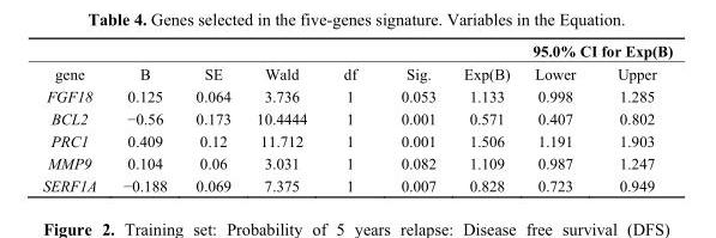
<table><thead><tr><td rowspan="2">gene</td><td rowspan="2">B</td><td rowspan="2">SE</td><td rowspan="2">Wald</td><td rowspan="2">df</td><td rowspan="2">Sig.</td><td rowspan="2">Exp(B)</td><td colspan="2">95.0% CI for Exp(B)</td></tr><tr><td>Lower</td><td>Upper</td></tr></thead><tbody><tr><td>FGF18</td><td>0.125</td><td>0.064</td><td>3.736</td><td>1</td><td>0.053</td><td>1.133</td><td>0.998</td><td>1.285</td></tr><tr><td>BCL2</td><td>−0.56</td><td>0.173</td><td>10.4444</td><td>1</td><td>0.001</td><td>0.571</td><td>0.407</td><td>0.802</td></tr><tr><td>PRC1</td><td>0.409</td><td>0.12</td><td>11.712</td><td>1</td><td>0.001</td><td>1.506</td><td>1.191</td><td>1.903</td></tr><tr><td>MMP9</td><td>0.104</td><td>0.06</td><td>3.031</td><td>1</td><td>0.082</td><td>1.109</td><td>0.987</td><td>1.247</td></tr><tr><td>SERF1A</td><td>−0.188</td><td>0.069</td><td>7.375</td><td>1</td><td>0.007</td><td>0.828</td><td>0.723</td><td>0.949</td></tr></tbody></table>